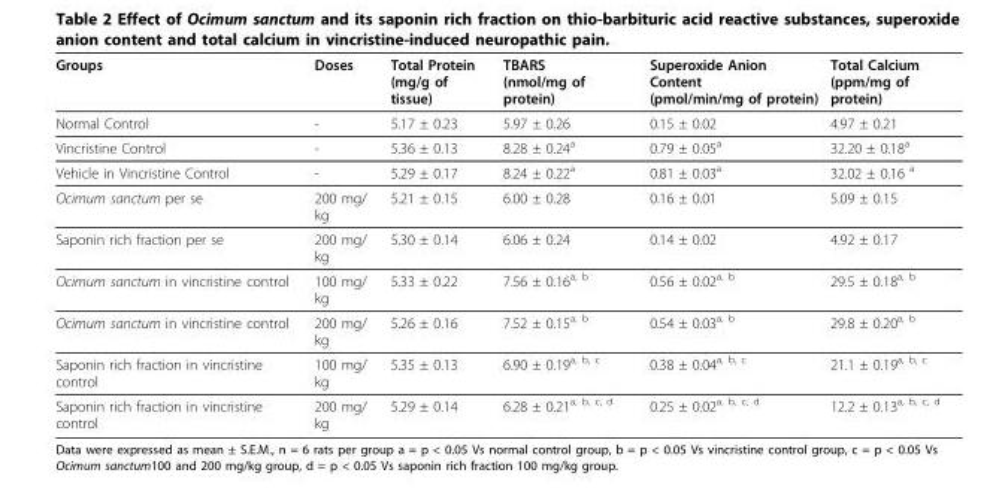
<table><thead><tr><td>Groups</td><td>Doses</td><td>Total Protein (mg/g of tissue)</td><td>TBARS (nmol/mg of protein)</td><td>Superoxide Anion Content (pmol/min/mg of protein)</td><td>Total Calcium (ppm/mg of protein)</td></tr></thead><tbody><tr><td>Normal Control</td><td>-</td><td>5.17 ± 0.23</td><td>5.97 ± 0.26</td><td>0.15 ± 0.02</td><td>4.97 ± 0.21</td></tr><tr><td>Vincristine Control</td><td>-</td><td>5.36 ± 0.13</td><td>8.28 ± 0.24<sup>a</sup></td><td>0.79 ± 0.05<sup>a</sup></td><td>32.20 ± 0.18<sup>a</sup></td></tr><tr><td>Vehicle in Vincristine Control</td><td>-</td><td>5.29 ± 0.17</td><td>8.24 ± 0.22<sup>a</sup></td><td>0.81 ± 0.03<sup>a</sup></td><td>32.02 ± 0.16 <sup>a</sup></td></tr><tr><td>Ocimum sanctum per se</td><td>200 mg/ kg</td><td>5.21 ± 0.15</td><td>6.00 ± 0.28</td><td>0.16 ± 0.01</td><td>5.09 ± 0.15</td></tr><tr><td>Saponin rich fraction per se</td><td>200 mg/ kg</td><td>5.30 ± 0.14</td><td>6.06 ± 0.24</td><td>0.14 ± 0.02</td><td>4.92 ± 0.17</td></tr><tr><td>Ocimum sanctum in vincristine control</td><td>100 mg/ kg</td><td>5.33 ± 0.22</td><td>7.56 ± 0.16<sup>a, b</sup></td><td>0.56 ± 0.02<sup>a, b</sup></td><td>29.5 ± 0.18<sup>a, b</sup></td></tr><tr><td>Ocimum sanctum in vincristine control</td><td>200 mg/ kg</td><td>5.26 ± 0.16</td><td>7.52 ± 0.15<sup>a, b</sup></td><td>0.54 ± 0.03<sup>a, b</sup></td><td>29.8 ± 0.20<sup>a, b</sup></td></tr><tr><td>Saponin rich fraction in vincristine control</td><td>100 mg/ kg</td><td>5.35 ± 0.13</td><td>6.90 ± 0.19<sup>a, b, c</sup></td><td>0.38 ± 0.04<sup>a, b, c</sup></td><td>21.1 ± 0.19<sup>a, b, c</sup></td></tr><tr><td>Saponin rich fraction in vincristine control</td><td>200 mg/ kg</td><td>5.29 ± 0.14</td><td>6.28 ± 0.21<sup>a, b, c, d</sup></td><td>0.25 ± 0.02<sup>a, b, c, d</sup></td><td>12.2 ± 0.13<sup>a, b, c, d</sup></td></tr></tbody></table>